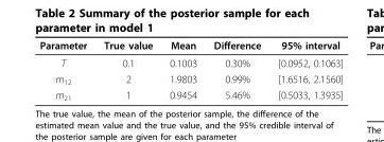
<table><thead><tr><td>Parameter</td><td>True value</td><td>Mean</td><td>Difference</td><td>95% interval</td></tr></thead><tbody><tr><td>T</td><td>0.1</td><td>0.1003</td><td>0.30%</td><td>[0.0952, 0.1063]</td></tr><tr><td>m<sub>12</sub></td><td>2</td><td>1.9803</td><td>0.99%</td><td>[1.6516, 2.1560]</td></tr><tr><td>m<sub>21</sub></td><td>1</td><td>0.9454</td><td>5.46%</td><td>[0.5033, 1.3935]</td></tr></tbody></table>